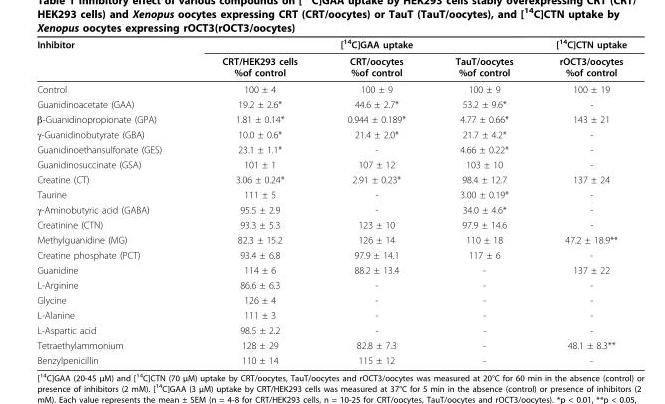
<table><thead><tr><td rowspan="2">Inhibitor</td><td rowspan="2">CRT/HEK293 cells %of control</td><td rowspan="2">[<sup>14</sup>C]GAA uptake CRT/oocytes %of control</td><td rowspan="2">TauT/oocytes %of control</td><td rowspan="2">[<sup>14</sup>C]CTN uptake rOCT3/oocytes %of control</td></tr><tr></tr></thead><tbody><tr><td>Control</td><td>100 ± 4</td><td>100 ± 9</td><td>100 ± 9</td><td>100 ± 19</td></tr><tr><td>Guanidinoacetate (GAA)</td><td>19.2 ± 2.6*</td><td>44.6 ± 2.7*</td><td>53.2 ± 9.6*</td><td>-</td></tr><tr><td>β-Guanidinopropionate (GPA)</td><td>1.81 ± 0.14*</td><td>0.944 ± 0.189*</td><td>4.77 ± 0.66*</td><td>143 ± 21</td></tr><tr><td>γ-Guanidinobutyrate (GBA)</td><td>10.0 ± 0.6*</td><td>21.4 ± 2.0*</td><td>21.7 ± 4.2*</td><td>-</td></tr><tr><td>Guanidinoethansulfonate (GES)</td><td>23.1 ± 1.1*</td><td>-</td><td>4.66 ± 0.22*</td><td>-</td></tr><tr><td>Guanidinosuccinate (GSA)</td><td>101 ± 1</td><td>107 ± 12</td><td>103 ± 10</td><td>-</td></tr><tr><td>Creatine (CT)</td><td>3.06 ± 0.24*</td><td>2.91 ± 0.23*</td><td>98.4 ± 12.7</td><td>137 ± 24</td></tr><tr><td>Taurine</td><td>111 ± 5</td><td>-</td><td>3.00 ± 0.19*</td><td>-</td></tr><tr><td>γ-Aminobutyric acid (GABA)</td><td>95.5 ± 2.9</td><td>-</td><td>34.0 ± 4.6*</td><td>-</td></tr><tr><td>Creatinine (CTN)</td><td>93.3 ± 5.3</td><td>123 ± 10</td><td>97.9 ± 14.6</td><td>-</td></tr><tr><td>Methylguanidine (MG)</td><td>82.3 ± 15.2</td><td>126 ± 14</td><td>110 ± 18</td><td>47.2 ± 18.9**</td></tr><tr><td>Creatine phosphate (PCT)</td><td>93.4 ± 6.8</td><td>97.9 ± 14.1</td><td>117 ± 6</td><td>-</td></tr><tr><td>Guanidine</td><td>114 ± 6</td><td>88.2 ± 13.4</td><td>-</td><td>137 ± 22</td></tr><tr><td>L-Arginine</td><td>86.6 ± 6.3</td><td>-</td><td>-</td><td>-</td></tr><tr><td>Glycine</td><td>126 ± 4</td><td>-</td><td>-</td><td>-</td></tr><tr><td>L-Alanine</td><td>111 ± 3</td><td>-</td><td>-</td><td>-</td></tr><tr><td>L-Aspartic acid</td><td>98.5 ± 2.2</td><td>-</td><td>-</td><td>-</td></tr><tr><td>Tetraethylammonium</td><td>128 ± 29</td><td>82.8 ± 7.3</td><td>-</td><td>48.1 ± 8.3**</td></tr><tr><td>Benzylpenicillin</td><td>110 ± 14</td><td>115 ± 12</td><td>-</td><td>-</td></tr></tbody></table>